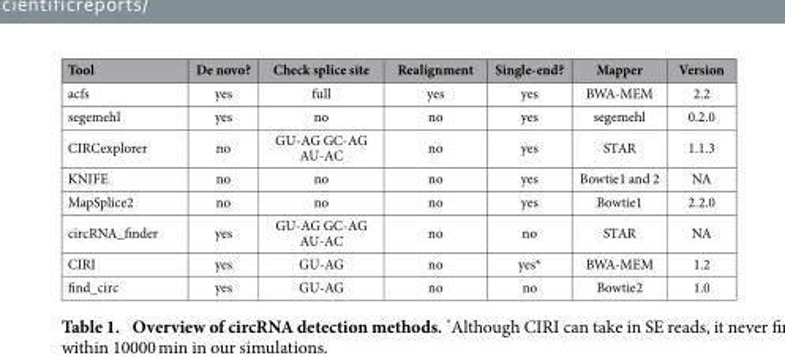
<table><thead><tr><td>Tool</td><td>De novo?</td><td>Check splice site</td><td>Realignment</td><td>Single-end?</td><td>Mapper</td><td>Version</td></tr></thead><tbody><tr><td>acfs</td><td>yes</td><td>full</td><td>yes</td><td>yes</td><td>BWA-MEM</td><td>2.2</td></tr><tr><td>segemehl</td><td>yes</td><td>no</td><td>no</td><td>yes</td><td>segemehl</td><td>0.2.0</td></tr><tr><td>CIRCexplorer</td><td>no</td><td>GU-AG GC-AG AU-AC</td><td>no</td><td>yes</td><td>STAR</td><td>1.1.3</td></tr><tr><td>KNIFE</td><td>no</td><td>no</td><td>no</td><td>yes</td><td>Bowtie1 and 2</td><td>NA</td></tr><tr><td>MapSplice2</td><td>no</td><td>no</td><td>no</td><td>yes</td><td>Bowtie1</td><td>2.2.0</td></tr><tr><td>circRNA_finder</td><td>yes</td><td>GU-AG GC-AG AU-AC</td><td>no</td><td>no</td><td>STAR</td><td>NA</td></tr><tr><td>CIRI</td><td>yes</td><td>GU-AG</td><td>no</td><td>yes*</td><td>BWA-MEM</td><td>1.2</td></tr><tr><td>find_circ</td><td>yes</td><td>GU-AG</td><td>no</td><td>no</td><td>Bowtie2</td><td>1.0</td></tr></tbody></table>